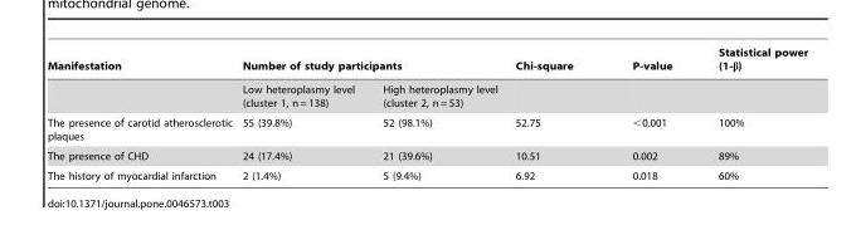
<table><thead><tr><td rowspan="2">Manifestation</td><td colspan="2">Number of study participants</td><td rowspan="2">Chi-square</td><td rowspan="2">P-value</td><td rowspan="2">Statistical power (1-β)</td></tr><tr><td>Low heteroplasmy level (cluster 1, n = 138)</td><td>High heteroplasmy level (cluster 2, n = 53)</td></tr></thead><tbody><tr><td>The presence of carotid atherosclerotic plaques</td><td>55 (39.8%)</td><td>52 (98.1%)</td><td>52.75</td><td>&lt;0.001</td><td>100%</td></tr><tr><td>The presence of CHD</td><td>24 (17.4%)</td><td>21 (39.6%)</td><td>10.51</td><td>0.002</td><td>89%</td></tr><tr><td>The history of myocardial infarction</td><td>2 (1.4%)</td><td>5 (9.4%)</td><td>6.92</td><td>0.018</td><td>60%</td></tr></tbody></table>